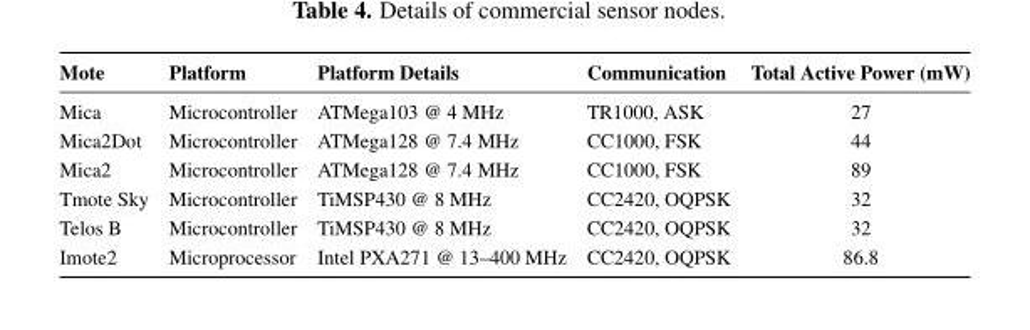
<table><thead><tr><td>Mote</td><td>Platform</td><td>Platform Details</td><td>Communication</td><td>Total Active Power (mW)</td></tr></thead><tbody><tr><td>Mica</td><td>Microcontroller</td><td>ATMega103 @ 4 MHz</td><td>TR1000, ASK</td><td>27</td></tr><tr><td>Mica2Dot</td><td>Microcontroller</td><td>ATMega128 @ 7.4 MHz</td><td>CC1000, FSK</td><td>44</td></tr><tr><td>Mica2</td><td>Microcontroller</td><td>ATMega128 @ 7.4 MHz</td><td>CC1000, FSK</td><td>89</td></tr><tr><td>Tmote Sky</td><td>Microcontroller</td><td>TiMSP430 @ 8 MHz</td><td>CC2420, OQPSK</td><td>32</td></tr><tr><td>Telos B</td><td>Microcontroller</td><td>TiMSP430 @ 8 MHz</td><td>CC2420, OQPSK</td><td>32</td></tr><tr><td>Imote2</td><td>Microprocessor</td><td>Intel PXA271 @ 13–400 MHz</td><td>CC2420, OQPSK</td><td>86.8</td></tr></tbody></table>